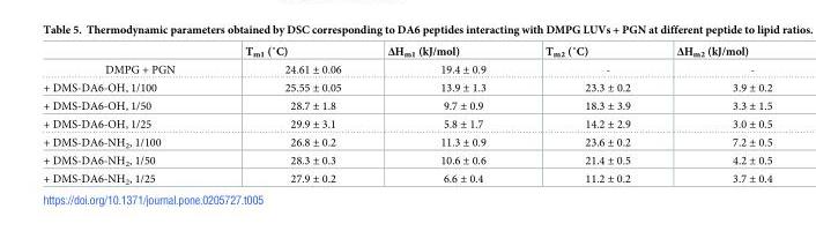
<table><thead><tr><td></td><td>Tm1 (˚C)</td><td>ΔH<sub>m1</sub> (kJ/mol)</td><td>Tm2 (˚C)</td><td>ΔH<sub>m2</sub> (kJ/mol)</td></tr></thead><tbody><tr><td>DMPG + PGN</td><td>24.61 ± 0.06</td><td>19.4 ± 0.9</td><td>-</td><td>-</td></tr><tr><td>+ DMS-DA6-OH, 1/100</td><td>25.55 ± 0.05</td><td>13.9 ± 1.3</td><td>23.3 ± 0.2</td><td>3.9 ± 0.2</td></tr><tr><td>+ DMS-DA6-OH, 1/50</td><td>28.7 ± 1.8</td><td>9.7 ± 0.9</td><td>18.3 ± 3.9</td><td>3.3 ± 1.5</td></tr><tr><td>+ DMS-DA6-OH, 1/25</td><td>29.9 ± 3.1</td><td>5.8 ± 1.7</td><td>14.2 ± 2.9</td><td>3.0 ± 0.5</td></tr><tr><td>+ DMS-DA6-NH<sub>2</sub>, 1/100</td><td>26.8 ± 0.2</td><td>11.3 ± 0.9</td><td>23.6 ± 0.2</td><td>7.2 ± 0.5</td></tr><tr><td>+ DMS-DA6-NH<sub>2</sub>, 1/50</td><td>28.3 ± 0.3</td><td>10.6 ± 0.6</td><td>21.4 ± 0.5</td><td>4.2 ± 0.5</td></tr><tr><td>+ DMS-DA6-NH<sub>2</sub>, 1/25</td><td>27.9 ± 0.2</td><td>6.6 ± 0.4</td><td>11.2 ± 0.2</td><td>3.7 ± 0.4</td></tr></tbody></table>